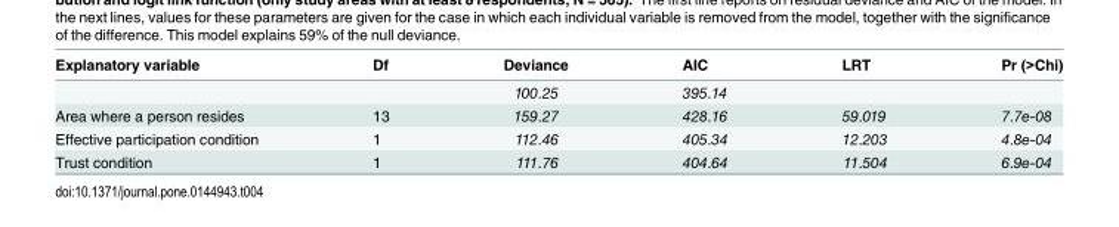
<table><thead><tr><td>Explanatory variable</td><td>Df</td><td>Deviance</td><td>AIC</td><td>LRT</td><td>Pr (&gt;Chi)</td></tr></thead><tbody><tr><td></td><td></td><td>100.25</td><td>395.14</td><td></td><td></td></tr><tr><td>Area where a person resides</td><td>13</td><td>159.27</td><td>428.16</td><td>59.019</td><td>7.7e-08</td></tr><tr><td>Effective participation condition</td><td>1</td><td>112.46</td><td>405.34</td><td>12.203</td><td>4.8e-04</td></tr><tr><td>Trust condition</td><td>1</td><td>111.76</td><td>404.64</td><td>11.504</td><td>6.9e-04</td></tr></tbody></table>